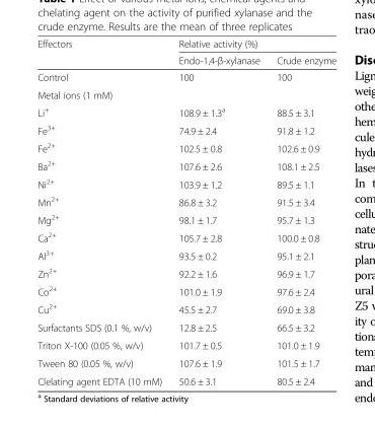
<table><thead><tr><td rowspan="2">Effectors</td><td colspan="2">Relative activity (%)</td></tr><tr><td>Endo-1,4-β-xylanase</td><td>Crude enzyme</td></tr></thead><tbody><tr><td>Control</td><td>100</td><td>100</td></tr><tr><td colspan="3">Metal ions (1 mM)</td></tr><tr><td>Li<sup>+</sup></td><td>108.9 ± 1.3<sup>a</sup></td><td>88.5 ± 3.1</td></tr><tr><td>Fe<sup>3+</sup></td><td>74.9 ± 2.4</td><td>91.8 ± 1.2</td></tr><tr><td>Fe<sup>2+</sup></td><td>102.5 ± 0.8</td><td>102.6 ± 0.9</td></tr><tr><td>Ba<sup>2+</sup></td><td>107.6 ± 2.6</td><td>108.1 ± 2.5</td></tr><tr><td>Ni<sup>2+</sup></td><td>103.9 ± 1.2</td><td>89.5 ± 1.1</td></tr><tr><td>Mn<sup>2+</sup></td><td>86.8 ± 3.2</td><td>91.5 ± 3.4</td></tr><tr><td>Mg<sup>2+</sup></td><td>98.1 ± 1.7</td><td>95.7 ± 1.3</td></tr><tr><td>Ca<sup>2+</sup></td><td>105.7 ± 2.8</td><td>100.0 ± 0.8</td></tr><tr><td>Al<sup>3+</sup></td><td>93.5 ± 0.2</td><td>95.1 ± 2.1</td></tr><tr><td>Zn<sup>2+</sup></td><td>92.2 ± 1.6</td><td>96.9 ± 1.7</td></tr><tr><td>Co<sup>2+</sup></td><td>101.0 ± 1.9</td><td>97.6 ± 2.4</td></tr><tr><td>Cu<sup>2+</sup></td><td>45.5 ± 2.7</td><td>69.0 ± 3.8</td></tr><tr><td>Surfactants SDS (0.1 %, w/v)</td><td>12.8 ± 2.5</td><td>66.5 ± 3.2</td></tr><tr><td>Triton X-100 (0.05 %, w/v)</td><td>101.7 ± 0.5</td><td>101.0 ± 1.9</td></tr><tr><td>Tween 80 (0.05 %, w/v)</td><td>107.6 ± 1.9</td><td>101.5 ± 1.7</td></tr><tr><td>Clelating agent EDTA (10 mM)</td><td>50.6 ± 3.1</td><td>80.5 ± 2.4</td></tr></tbody></table>